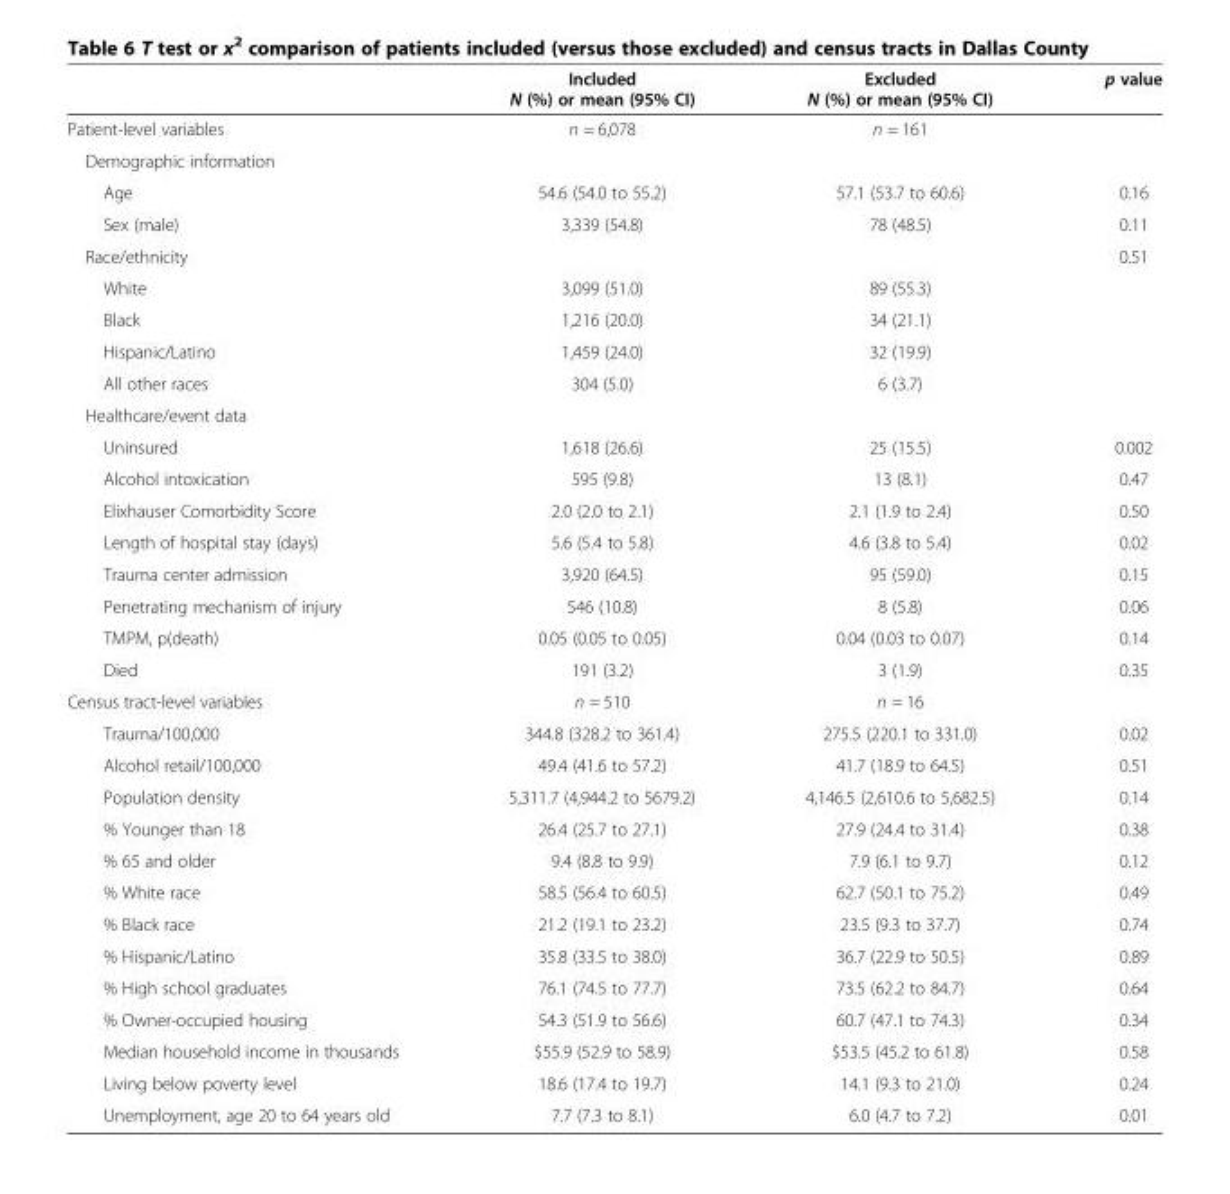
<table><thead><tr><td></td><td>Included N (%) or mean (95% CI)</td><td>Excluded N (%) or mean (95% CI)</td><td>p value</td></tr></thead><tbody><tr><td>Patient-level variables</td><td>n = 6,078</td><td>n = 161</td><td></td></tr><tr><td colspan="4">Demographic information</td></tr><tr><td>Age</td><td>54.6 (54.0 to 55.2)</td><td>57.1 (53.7 to 60.6)</td><td>0.16</td></tr><tr><td>Sex (male)</td><td>3,339 (54.8)</td><td>78 (48.5)</td><td>0.11</td></tr><tr><td>Race/ethnicity</td><td></td><td></td><td>0.51</td></tr><tr><td>White</td><td>3,099 (51.0)</td><td>89 (55.3)</td><td></td></tr><tr><td>Black</td><td>1,216 (20.0)</td><td>34 (21.1)</td><td></td></tr><tr><td>Hispanic/Latino</td><td>1,459 (24.0)</td><td>32 (19.9)</td><td></td></tr><tr><td>All other races</td><td>304 (5.0)</td><td>6 (3.7)</td><td></td></tr><tr><td colspan="4">Healthcare/event data</td></tr><tr><td>Uninsured</td><td>1,618 (26.6)</td><td>25 (15.5)</td><td>0.002</td></tr><tr><td>Alcohol intoxication</td><td>595 (9.8)</td><td>13 (8.1)</td><td>0.47</td></tr><tr><td>Elixhauser Comorbidity Score</td><td>2.0 (2.0 to 2.1)</td><td>2.1 (1.9 to 2.4)</td><td>0.50</td></tr><tr><td>Length of hospital stay (days)</td><td>5.6 (5.4 to 5.8)</td><td>4.6 (3.8 to 5.4)</td><td>0.02</td></tr><tr><td>Trauma center admission</td><td>3,920 (64.5)</td><td>95 (59.0)</td><td>0.15</td></tr><tr><td>Penetrating mechanism of injury</td><td>546 (10.8)</td><td>8 (5.8)</td><td>0.06</td></tr><tr><td>TMPM, p(death)</td><td>0.05 (0.05 to 0.05)</td><td>0.04 (0.03 to 0.07)</td><td>0.14</td></tr><tr><td>Died</td><td>191 (3.2)</td><td>3 (1.9)</td><td>0.35</td></tr><tr><td>Census tract-level variables</td><td>n = 510</td><td>n = 16</td><td></td></tr><tr><td>Trauma/100,000</td><td>344.8 (328.2 to 361.4)</td><td>275.5 (220.1 to 331.0)</td><td>0.02</td></tr><tr><td>Alcohol retail/100,000</td><td>49.4 (41.6 to 57.2)</td><td>41.7 (18.9 to 64.5)</td><td>0.51</td></tr><tr><td>Population density</td><td>5,311.7 (4,944.2 to 5679.2)</td><td>4,146.5 (2,610.6 to 5,682.5)</td><td>0.14</td></tr><tr><td>% Younger than 18</td><td>26.4 (25.7 to 27.1)</td><td>27.9 (24.4 to 31.4)</td><td>0.38</td></tr><tr><td>% 65 and older</td><td>9.4 (8.8 to 9.9)</td><td>7.9 (6.1 to 9.7)</td><td>0.12</td></tr><tr><td>% White race</td><td>58.5 (56.4 to 60.5)</td><td>62.7 (50.1 to 75.2)</td><td>0.49</td></tr><tr><td>% Black race</td><td>21.2 (19.1 to 23.2)</td><td>23.5 (9.3 to 37.7)</td><td>0.74</td></tr><tr><td>% Hispanic/Latino</td><td>35.8 (33.5 to 38.0)</td><td>36.7 (22.9 to 50.5)</td><td>0.89</td></tr><tr><td>% High school graduates</td><td>76.1 (74.5 to 77.7)</td><td>73.5 (62.2 to 84.7)</td><td>0.64</td></tr><tr><td>% Owner-occupied housing</td><td>54.3 (51.9 to 56.6)</td><td>60.7 (47.1 to 74.3)</td><td>0.34</td></tr><tr><td>Median household income in thousands</td><td>$55.9 (52.9 to 58.9)</td><td>$53.5 (45.2 to 61.8)</td><td>0.58</td></tr><tr><td>Living below poverty level</td><td>18.6 (17.4 to 19.7)</td><td>14.1 (9.3 to 21.0)</td><td>0.24</td></tr><tr><td>Unemployment, age 20 to 64 years old</td><td>7.7 (7.3 to 8.1)</td><td>6.0 (4.7 to 7.2)</td><td>0.01</td></tr></tbody></table>